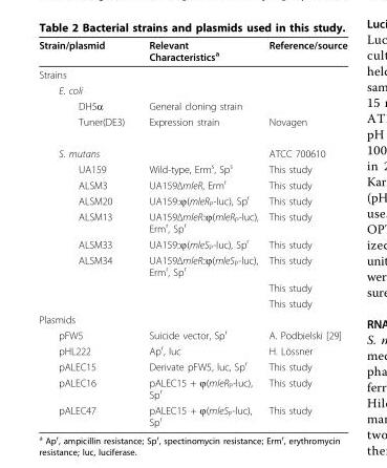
<table><thead><tr><td>Strain/plasmid</td><td>Relevant Characteristics<sup>a</sup></td><td>Reference/source</td></tr></thead><tbody><tr><td colspan="3">Strains</td></tr><tr><td colspan="3">E. coli</td></tr><tr><td>DH5α</td><td>General cloning strain</td><td></td></tr><tr><td>Tuner(DE3)</td><td>Expression strain</td><td>Novagen</td></tr><tr><td>S. mutans</td><td></td><td>ATCC 700610</td></tr><tr><td>UA159</td><td>Wild-type, Erm<sup>s</sup>, Sp<sup>s</sup></td><td>This study</td></tr><tr><td>ALSM3</td><td>UA159ΔmleR, Erm<sup>r</sup></td><td>This study</td></tr><tr><td>ALSM20</td><td>UA159::ϕ(mleR<sub>P</sub>-luc), Sp<sup>r</sup></td><td>This study</td></tr><tr><td>ALSM13</td><td>UA159ΔmleR::ϕ(mleR<sub>P</sub>-luc), Erm<sup>r</sup>, Sp<sup>r</sup></td><td>This study</td></tr><tr><td>ALSM33</td><td>UA159::ϕ(mleS<sub>P</sub>-luc), Sp<sup>r</sup></td><td>This study</td></tr><tr><td rowspan="3">ALSM34</td><td>UA159ΔmleR::ϕ(mleS<sub>P</sub>-luc), Erm<sup>r</sup>, Sp<sup>r</sup></td><td>This study</td></tr><tr><td></td><td>This study</td></tr><tr><td></td><td>This study</td></tr><tr><td colspan="3">Plasmids</td></tr><tr><td>pFW5</td><td>Suicide vector, Sp<sup>r</sup></td><td>A. Podbielski [29]</td></tr><tr><td>pHL222</td><td>Ap<sup>r</sup>, luc</td><td>H. Lössner</td></tr><tr><td>pALEC15</td><td>Derivate pFW5, luc, Sp<sup>r</sup></td><td>This study</td></tr><tr><td>pALEC16</td><td>pALEC15 + ϕ(mleR<sub>P</sub>-luc), Sp<sup>r</sup></td><td>This study</td></tr><tr><td>pALEC47</td><td>pALEC15 + ϕ(mleS<sub>P</sub>-luc), Sp<sup>r</sup></td><td>This study</td></tr></tbody></table>